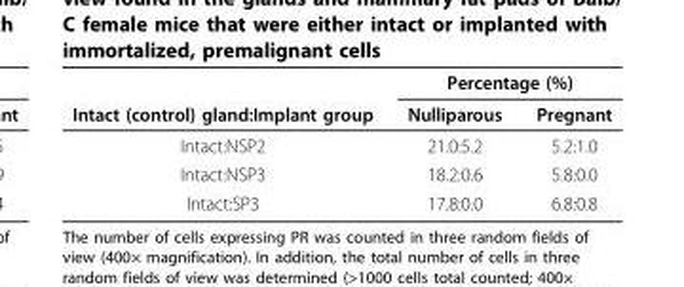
<table><thead><tr><td rowspan="2">Intact (control) gland:Implant group</td><td colspan="2">Percentage (%)</td></tr><tr><td>Nulliparous</td><td>Pregnant</td></tr></thead><tbody><tr><td>Intact:NSP2</td><td>21.0:5.2</td><td>5.2:1.0</td></tr><tr><td>Intact:NSP3</td><td>18.2:0.6</td><td>5.8:0.0</td></tr><tr><td>Intact:SP3</td><td>17.8:0.0</td><td>6.8:0.8</td></tr></tbody></table>